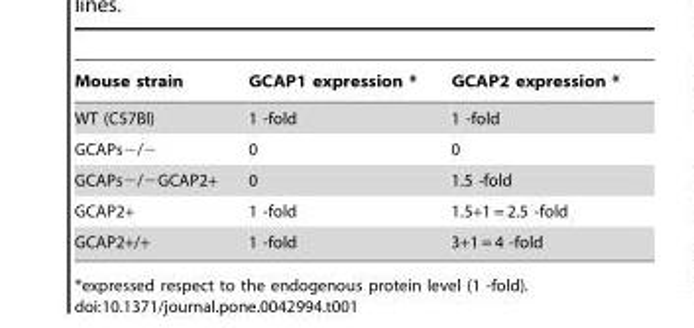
<table><thead><tr><td>Mouse strain</td><td>GCAP1 expression *</td><td>GCAP2 expression *</td></tr></thead><tbody><tr><td>WT (C57Bl)</td><td>1 -fold</td><td>1 -fold</td></tr><tr><td>GCAPs−/−</td><td>0</td><td>0</td></tr><tr><td>GCAPs−/−GCAP2+</td><td>0</td><td>1.5 -fold</td></tr><tr><td>GCAP2+</td><td>1 -fold</td><td>1.5+1 = 2.5 -fold</td></tr><tr><td>GCAP2+/+</td><td>1 -fold</td><td>3+1 = 4 -fold</td></tr></tbody></table>